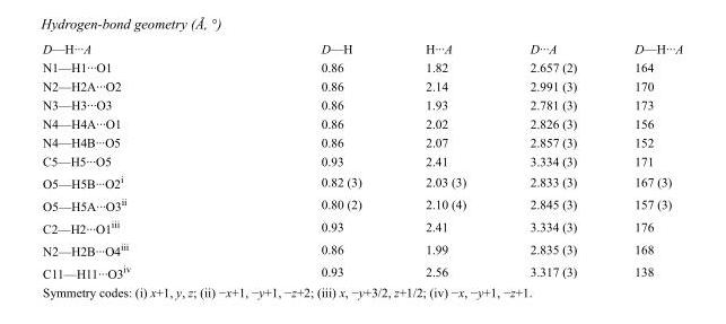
<table><tbody><tr><td>D—H···A</td><td>D—H</td><td>H···A</td><td>D···A</td><td>D—H···A</td></tr><tr><td>N1—H1···O1</td><td>0.86</td><td>1.82</td><td>2.657 (2)</td><td>164</td></tr><tr><td>N2—H2A···O2</td><td>0.86</td><td>2.14</td><td>2.991 (3)</td><td>170</td></tr><tr><td>N3—H3···O3</td><td>0.86</td><td>1.93</td><td>2.781 (3)</td><td>173</td></tr><tr><td>N4—H4A···O1</td><td>0.86</td><td>2.02</td><td>2.826 (3)</td><td>156</td></tr><tr><td>N4—H4B···O5</td><td>0.86</td><td>2.07</td><td>2.857 (3)</td><td>152</td></tr><tr><td>C5—H5···O5</td><td>0.93</td><td>2.41</td><td>3.334 (3)</td><td>171</td></tr><tr><td>O5—H5B···O2<sup>i</sup></td><td>0.82 (3)</td><td>2.03 (3)</td><td>2.833 (3)</td><td>167 (3)</td></tr><tr><td>O5—H5A···O3<sup>ii</sup></td><td>0.80 (2)</td><td>2.10 (4)</td><td>2.845 (3)</td><td>157 (3)</td></tr><tr><td>C2—H2···O1<sup>iii</sup></td><td>0.93</td><td>2.41</td><td>3.334 (3)</td><td>176</td></tr><tr><td>N2—H2B···O4<sup>iii</sup></td><td>0.86</td><td>1.99</td><td>2.835 (3)</td><td>168</td></tr><tr><td>C11—H11···O3<sup>iv</sup></td><td>0.93</td><td>2.56</td><td>3.317 (3)</td><td>138</td></tr></tbody></table>